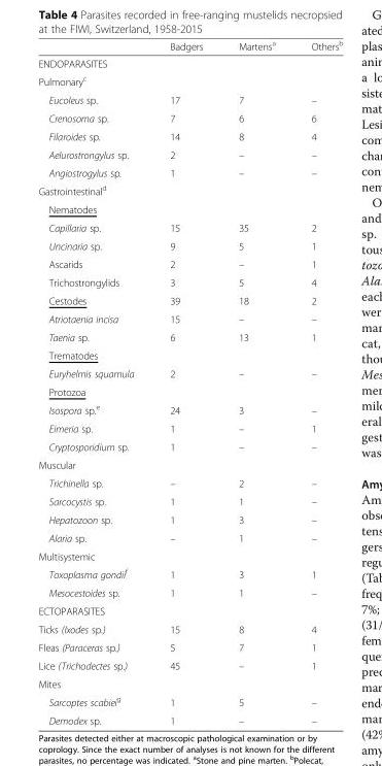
<table><thead><tr><td></td><td>Badgers</td><td>Martens<sup>a</sup></td><td>Others<sup>b</sup></td></tr></thead><tbody><tr><td colspan="4">ENDOPARASITES</td></tr><tr><td colspan="4">Pulmonary<sup>c</sup></td></tr><tr><td>Eucoleus sp.</td><td>17</td><td>7</td><td>–</td></tr><tr><td>Crenosoma sp.</td><td>7</td><td>6</td><td>6</td></tr><tr><td>Filaroides sp.</td><td>14</td><td>8</td><td>4</td></tr><tr><td>Aelurostrongylus sp.</td><td>2</td><td>–</td><td>–</td></tr><tr><td>Angiostrogylus sp.</td><td>1</td><td>–</td><td>–</td></tr><tr><td colspan="4">Gastrointestinal<sup>d</sup></td></tr><tr><td colspan="4">Nematodes</td></tr><tr><td>Capillaria sp.</td><td>15</td><td>35</td><td>2</td></tr><tr><td>Uncinaria sp.</td><td>9</td><td>5</td><td>1</td></tr><tr><td>Ascarids</td><td>2</td><td>–</td><td>1</td></tr><tr><td>Trichostrongylids</td><td>3</td><td>5</td><td>4</td></tr><tr><td>Cestodes</td><td>39</td><td>18</td><td>2</td></tr><tr><td>Atriotaenia incisa</td><td>15</td><td>–</td><td>–</td></tr><tr><td>Taenia sp.</td><td>6</td><td>13</td><td>1</td></tr><tr><td colspan="4">Trematodes</td></tr><tr><td>Euryhelmis squamula</td><td>2</td><td>–</td><td>–</td></tr><tr><td colspan="4">Protozoa</td></tr><tr><td>Isospora sp.<sup>e</sup></td><td>24</td><td>3</td><td>–</td></tr><tr><td>Eimeria sp.</td><td>1</td><td>–</td><td>1</td></tr><tr><td>Cryptosporidium sp.</td><td>1</td><td>–</td><td>–</td></tr><tr><td colspan="4">Muscular</td></tr><tr><td>Trichinella sp.</td><td>–</td><td>2</td><td>–</td></tr><tr><td>Sarcocystis sp.</td><td>1</td><td>1</td><td>–</td></tr><tr><td>Hepatozoon sp.</td><td>1</td><td>3</td><td>–</td></tr><tr><td>Alaria sp.</td><td>–</td><td>1</td><td>–</td></tr><tr><td colspan="4">Multisystemic</td></tr><tr><td>Toxoplasma gondii<sup>f</sup></td><td>1</td><td>3</td><td>1</td></tr><tr><td>Mesocestoides sp.</td><td>1</td><td>1</td><td>–</td></tr><tr><td colspan="4">ECTOPARASITES</td></tr><tr><td>Ticks (Ixodes sp.)</td><td>15</td><td>8</td><td>4</td></tr><tr><td>Fleas (Paraceras sp.)</td><td>5</td><td>7</td><td>1</td></tr><tr><td>Lice (Trichodectes sp.)</td><td>45</td><td>–</td><td>1</td></tr><tr><td colspan="4">Mites</td></tr><tr><td>Sarcoptes scabiei<sup>g</sup></td><td>1</td><td>5</td><td>–</td></tr><tr><td>Demodex sp.</td><td>1</td><td>–</td><td>–</td></tr></tbody></table>